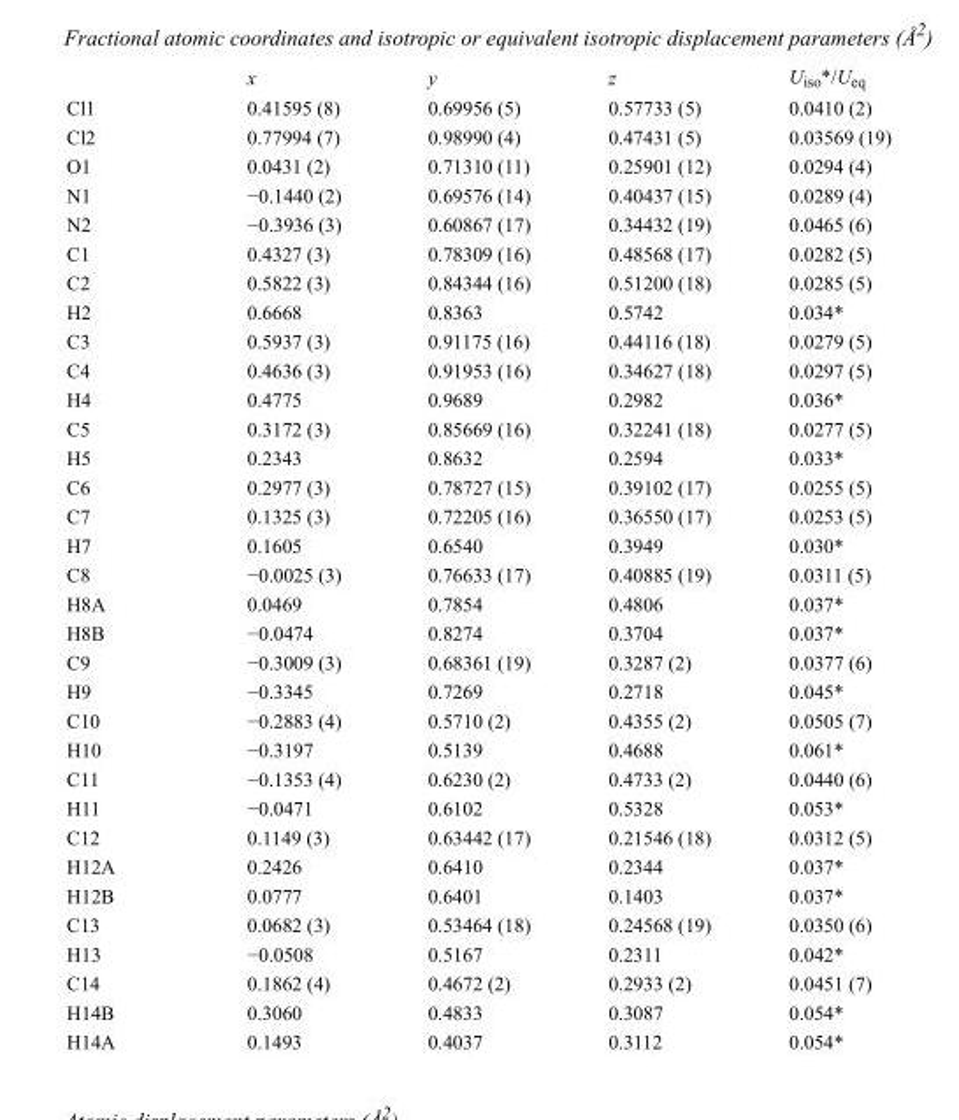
<table><thead><tr><td></td><td>x</td><td>y</td><td>z</td><td>U<sub>iso</sub>*/U<sub>eq</sub></td></tr></thead><tbody><tr><td>Cl1</td><td>0.41595 (8)</td><td>0.69956 (5)</td><td>0.57733 (5)</td><td>0.0410 (2)</td></tr><tr><td>Cl2</td><td>0.77994 (7)</td><td>0.98990 (4)</td><td>0.47431 (5)</td><td>0.03569 (19)</td></tr><tr><td>O1</td><td>0.0431 (2)</td><td>0.71310 (11)</td><td>0.25901 (12)</td><td>0.0294 (4)</td></tr><tr><td>N1</td><td>−0.1440 (2)</td><td>0.69576 (14)</td><td>0.40437 (15)</td><td>0.0289 (4)</td></tr><tr><td>N2</td><td>−0.3936 (3)</td><td>0.60867 (17)</td><td>0.34432 (19)</td><td>0.0465 (6)</td></tr><tr><td>C1</td><td>0.4327 (3)</td><td>0.78309 (16)</td><td>0.48568 (17)</td><td>0.0282 (5)</td></tr><tr><td>C2</td><td>0.5822 (3)</td><td>0.84344 (16)</td><td>0.51200 (18)</td><td>0.0285 (5)</td></tr><tr><td>H2</td><td>0.6668</td><td>0.8363</td><td>0.5742</td><td>0.034*</td></tr><tr><td>C3</td><td>0.5937 (3)</td><td>0.91175 (16)</td><td>0.44116 (18)</td><td>0.0279 (5)</td></tr><tr><td>C4</td><td>0.4636 (3)</td><td>0.91953 (16)</td><td>0.34627 (18)</td><td>0.0297 (5)</td></tr><tr><td>H4</td><td>0.4775</td><td>0.9689</td><td>0.2982</td><td>0.036*</td></tr><tr><td>C5</td><td>0.3172 (3)</td><td>0.85669 (16)</td><td>0.32241 (18)</td><td>0.0277 (5)</td></tr><tr><td>H5</td><td>0.2343</td><td>0.8632</td><td>0.2594</td><td>0.033*</td></tr><tr><td>C6</td><td>0.2977 (3)</td><td>0.78727 (15)</td><td>0.39102 (17)</td><td>0.0255 (5)</td></tr><tr><td>C7</td><td>0.1325 (3)</td><td>0.72205 (16)</td><td>0.36550 (17)</td><td>0.0253 (5)</td></tr><tr><td>H7</td><td>0.1605</td><td>0.6540</td><td>0.3949</td><td>0.030*</td></tr><tr><td>C8</td><td>−0.0025 (3)</td><td>0.76633 (17)</td><td>0.40885 (19)</td><td>0.0311 (5)</td></tr><tr><td>H8A</td><td>0.0469</td><td>0.7854</td><td>0.4806</td><td>0.037*</td></tr><tr><td>H8B</td><td>−0.0474</td><td>0.8274</td><td>0.3704</td><td>0.037*</td></tr><tr><td>C9</td><td>−0.3009 (3)</td><td>0.68361 (19)</td><td>0.3287 (2)</td><td>0.0377 (6)</td></tr><tr><td>H9</td><td>−0.3345</td><td>0.7269</td><td>0.2718</td><td>0.045*</td></tr><tr><td>C10</td><td>−0.2883 (4)</td><td>0.5710 (2)</td><td>0.4355 (2)</td><td>0.0505 (7)</td></tr><tr><td>H10</td><td>−0.3197</td><td>0.5139</td><td>0.4688</td><td>0.061*</td></tr><tr><td>C11</td><td>−0.1353 (4)</td><td>0.6230 (2)</td><td>0.4733 (2)</td><td>0.0440 (6)</td></tr><tr><td>H11</td><td>−0.0471</td><td>0.6102</td><td>0.5328</td><td>0.053*</td></tr><tr><td>C12</td><td>0.1149 (3)</td><td>0.63442 (17)</td><td>0.21546 (18)</td><td>0.0312 (5)</td></tr><tr><td>H12A</td><td>0.2426</td><td>0.6410</td><td>0.2344</td><td>0.037*</td></tr><tr><td>H12B</td><td>0.0777</td><td>0.6401</td><td>0.1403</td><td>0.037*</td></tr><tr><td>C13</td><td>0.0682 (3)</td><td>0.53464 (18)</td><td>0.24568 (19)</td><td>0.0350 (6)</td></tr><tr><td>H13</td><td>−0.0508</td><td>0.5167</td><td>0.2311</td><td>0.042*</td></tr><tr><td>C14</td><td>0.1862 (4)</td><td>0.4672 (2)</td><td>0.2933 (2)</td><td>0.0451 (7)</td></tr><tr><td>H14B</td><td>0.3060</td><td>0.4833</td><td>0.3087</td><td>0.054*</td></tr><tr><td>H14A</td><td>0.1493</td><td>0.4037</td><td>0.3112</td><td>0.054*</td></tr></tbody></table>